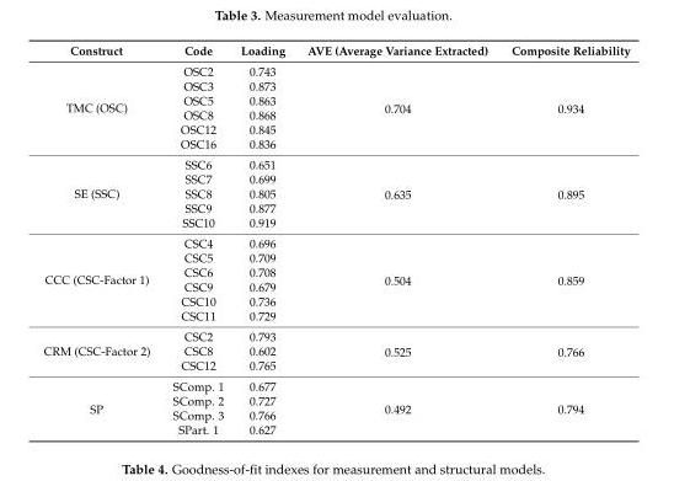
<table><thead><tr><td>Construct</td><td>Code</td><td>Loading</td><td>AVE (Average Variance Extracted)</td><td>Composite Reliability</td></tr></thead><tbody><tr><td rowspan="6">TMC (OSC)</td><td>OSC2</td><td>0.743</td><td rowspan="6">0.704</td><td rowspan="6">0.934</td></tr><tr><td>OSC3</td><td>0.873</td></tr><tr><td>OSC5</td><td>0.863</td></tr><tr><td>OSC8</td><td>0.868</td></tr><tr><td>OSC12</td><td>0.845</td></tr><tr><td>OSC16</td><td>0.836</td></tr><tr><td rowspan="5">SE (SSC)</td><td>SSC6</td><td>0.651</td><td rowspan="5">0.635</td><td rowspan="5">0.895</td></tr><tr><td>SSC7</td><td>0.699</td></tr><tr><td>SSC8</td><td>0.805</td></tr><tr><td>SSC9</td><td>0.877</td></tr><tr><td>SSC10</td><td>0.919</td></tr><tr><td rowspan="6">CCC (CSC-Factor 1)</td><td>CSC4</td><td>0.696</td><td rowspan="6">0.504</td><td rowspan="6">0.859</td></tr><tr><td>CSC5</td><td>0.709</td></tr><tr><td>CSC6</td><td>0.708</td></tr><tr><td>CSC9</td><td>0.679</td></tr><tr><td>CSC10</td><td>0.736</td></tr><tr><td>CSC11</td><td>0.729</td></tr><tr><td rowspan="3">CRM (CSC-Factor 2)</td><td>CSC2</td><td>0.793</td><td rowspan="3">0.525</td><td rowspan="3">0.766</td></tr><tr><td>CSC8</td><td>0.602</td></tr><tr><td>CSC12</td><td>0.765</td></tr><tr><td rowspan="4">SP</td><td>SComp. 1</td><td>0.677</td><td rowspan="4">0.492</td><td rowspan="4">0.794</td></tr><tr><td>SComp. 2</td><td>0.727</td></tr><tr><td>SComp. 3</td><td>0.766</td></tr><tr><td>SPart. 1</td><td>0.627</td></tr></tbody></table>